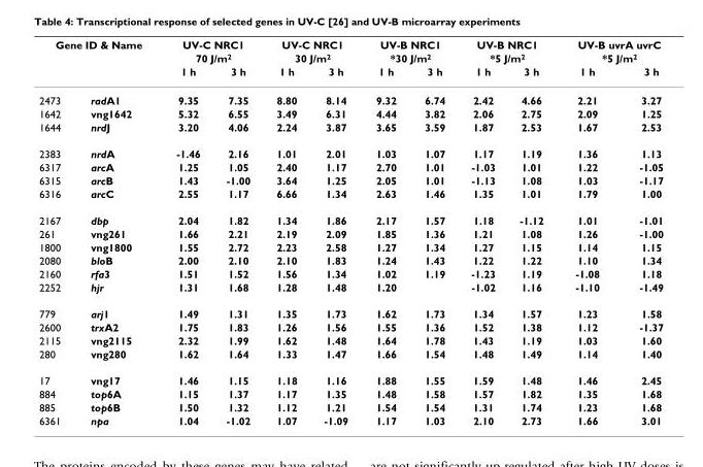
<table><thead><tr><td colspan="2">Gene ID &amp; Name</td><td rowspan="2" colspan="2">UV-C NRC1 70 J/m<sup>2</sup></td><td rowspan="2" colspan="2">UV-C NRC1 30 J/m2</td><td rowspan="2" colspan="2">UV-B NRC1 *30 J/m2</td><td rowspan="2" colspan="2">UV-B NRC1 *5 J/m<sup>2</sup></td><td rowspan="2" colspan="2">UV-B uvrA uvrC *5 J/m<sup>2</sup></td></tr><tr><td rowspan="2"></td><td rowspan="2"></td></tr><tr><td>1 h</td><td>3 h</td><td>1 h</td><td>3 h</td><td>1 h</td><td>3 h</td><td>1 h</td><td>3 h</td><td>1 h</td><td>3 h</td></tr></thead><tbody><tr><td>2473</td><td>radA1</td><td>9.35</td><td>7.35</td><td>8.80</td><td>8.14</td><td>9.32</td><td>6.74</td><td>2.42</td><td>4.66</td><td>2.21</td><td>3.27</td></tr><tr><td>1642</td><td>vng1642</td><td>5.32</td><td>6.55</td><td>3.49</td><td>6.31</td><td>4.44</td><td>3.82</td><td>2.06</td><td>2.75</td><td>2.09</td><td>1.25</td></tr><tr><td>1644</td><td>nrdJ</td><td>3.20</td><td>4.06</td><td>2.24</td><td>3.87</td><td>3.65</td><td>3.59</td><td>1.87</td><td>2.53</td><td>1.67</td><td>2.53</td></tr><tr><td>2383</td><td>nrdA</td><td>-1.46</td><td>2.16</td><td>1.01</td><td>2.01</td><td>1.03</td><td>1.07</td><td>1.17</td><td>1.19</td><td>1.36</td><td>1.13</td></tr><tr><td>6317</td><td>arcA</td><td>1.25</td><td>1.05</td><td>2.40</td><td>1.17</td><td>2.70</td><td>1.01</td><td>-1.03</td><td>1.01</td><td>1.22</td><td>-1.05</td></tr><tr><td>6315</td><td>arcB</td><td>1.43</td><td>-1.00</td><td>3.64</td><td>1.25</td><td>2.05</td><td>1.01</td><td>-1.13</td><td>1.08</td><td>1.03</td><td>-1.17</td></tr><tr><td>6316</td><td>arcC</td><td>2.55</td><td>1.17</td><td>6.66</td><td>1.34</td><td>2.63</td><td>1.46</td><td>1.35</td><td>1.01</td><td>1.79</td><td>1.00</td></tr><tr><td>2167</td><td>dbp</td><td>2.04</td><td>1.82</td><td>1.34</td><td>1.86</td><td>2.17</td><td>1.57</td><td>1.18</td><td>-1.12</td><td>1.01</td><td>-1.01</td></tr><tr><td>261</td><td>vng261</td><td>1.66</td><td>2.21</td><td>2.19</td><td>2.09</td><td>1.85</td><td>1.36</td><td>1.21</td><td>1.08</td><td>1.26</td><td>-1.00</td></tr><tr><td>1800</td><td>vng1800</td><td>1.55</td><td>2.72</td><td>2.23</td><td>2.58</td><td>1.27</td><td>1.34</td><td>1.27</td><td>1.15</td><td>1.14</td><td>1.15</td></tr><tr><td>2080</td><td>bloB</td><td>2.00</td><td>2.10</td><td>2.10</td><td>1.83</td><td>1.24</td><td>1.43</td><td>1.22</td><td>1.22</td><td>1.10</td><td>1.34</td></tr><tr><td>2160</td><td>rfa3</td><td>1.51</td><td>1.52</td><td>1.56</td><td>1.34</td><td>1.02</td><td>1.19</td><td>-1.23</td><td>1.19</td><td>-1.08</td><td>1.18</td></tr><tr><td>2252</td><td>hjr</td><td>1.31</td><td>1.68</td><td>1.28</td><td>1.48</td><td>1.20</td><td></td><td>-1.02</td><td>1.16</td><td>-1.10</td><td>-1.49</td></tr><tr><td>779</td><td>arj1</td><td>1.49</td><td>1.31</td><td>1.35</td><td>1.73</td><td>1.62</td><td>1.73</td><td>1.34</td><td>1.57</td><td>1.23</td><td>1.58</td></tr><tr><td>2600</td><td>trxA2</td><td>1.75</td><td>1.83</td><td>1.26</td><td>1.56</td><td>1.55</td><td>1.36</td><td>1.52</td><td>1.38</td><td>1.12</td><td>-1.37</td></tr><tr><td>2115</td><td>vng2115</td><td>2.32</td><td>1.99</td><td>1.62</td><td>1.48</td><td>1.64</td><td>1.78</td><td>1.43</td><td>1.19</td><td>1.03</td><td>1.60</td></tr><tr><td>280</td><td>vng280</td><td>1.62</td><td>1.64</td><td>1.33</td><td>1.47</td><td>1.66</td><td>1.54</td><td>1.48</td><td>1.49</td><td>1.14</td><td>1.40</td></tr><tr><td>17</td><td>vng17</td><td>1.46</td><td>1.15</td><td>1.18</td><td>1.16</td><td>1.88</td><td>1.55</td><td>1.59</td><td>1.48</td><td>1.46</td><td>2.45</td></tr><tr><td>884</td><td>top6A</td><td>1.15</td><td>1.37</td><td>1.17</td><td>1.35</td><td>1.48</td><td>1.58</td><td>1.57</td><td>1.82</td><td>1.35</td><td>1.68</td></tr><tr><td>885</td><td>top6B</td><td>1.50</td><td>1.32</td><td>1.12</td><td>1.21</td><td>1.54</td><td>1.54</td><td>1.31</td><td>1.74</td><td>1.23</td><td>1.68</td></tr><tr><td>6361</td><td>npa</td><td>1.04</td><td>-1.02</td><td>1.07</td><td>-1.09</td><td>1.17</td><td>1.03</td><td>2.10</td><td>2.73</td><td>1.66</td><td>3.01</td></tr></tbody></table>